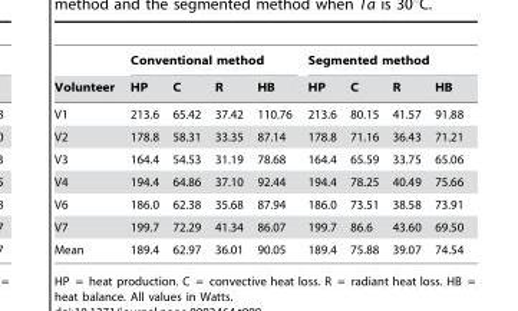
<table><thead><tr><td rowspan="2">Volunteer</td><td colspan="4">Conventional method</td><td colspan="4">Segmented method</td></tr><tr><td>HP</td><td>C</td><td>R</td><td>HB</td><td>HP</td><td>C</td><td>R</td><td>HB</td></tr></thead><tbody><tr><td>V1</td><td>213.6</td><td>65.42</td><td>37.42</td><td>110.76</td><td>213.6</td><td>80.15</td><td>41.57</td><td>91.88</td></tr><tr><td>V2</td><td>178.8</td><td>58.31</td><td>33.35</td><td>87.14</td><td>178.8</td><td>71.16</td><td>36.43</td><td>71.21</td></tr><tr><td>V3</td><td>164.4</td><td>54.53</td><td>31.19</td><td>78.68</td><td>164.4</td><td>65.59</td><td>33.75</td><td>65.06</td></tr><tr><td>V4</td><td>194.4</td><td>64.86</td><td>37.10</td><td>92.44</td><td>194.4</td><td>78.25</td><td>40.49</td><td>75.66</td></tr><tr><td>V6</td><td>186.0</td><td>62.38</td><td>35.68</td><td>87.94</td><td>186.0</td><td>73.51</td><td>38.58</td><td>73.91</td></tr><tr><td>V7</td><td>199.7</td><td>72.29</td><td>41.34</td><td>86.07</td><td>199.7</td><td>86.6</td><td>43.60</td><td>69.50</td></tr><tr><td>Mean</td><td>189.4</td><td>62.97</td><td>36.01</td><td>90.05</td><td>189.4</td><td>75.88</td><td>39.07</td><td>74.54</td></tr></tbody></table>